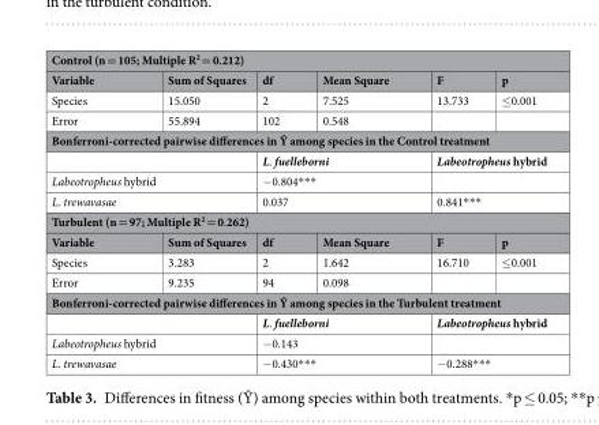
<table><thead><tr><td colspan="6">Control (n = 105; Multiple R<sup>2</sup> = 0.212)</td></tr><tr><td>Variable</td><td>Sum of Squares</td><td>df</td><td>Mean Square</td><td>F</td><td>p</td></tr></thead><tbody><tr><td>Species</td><td>15.050</td><td>2</td><td>7.525</td><td>13.733</td><td>≤0.001</td></tr><tr><td>Error</td><td>55.894</td><td>102</td><td>0.548</td><td></td><td></td></tr><tr><td colspan="6">Bonferroni-corrected pairwise differences in Ŷ among species in the Control treatment</td></tr><tr><td colspan="2"></td><td colspan="2">L. fuelleborni</td><td colspan="2">Labeotropheus hybrid</td></tr><tr><td colspan="2">Labeotropheus hybrid</td><td colspan="2">−0.804***</td><td colspan="2"></td></tr><tr><td colspan="2">L. trewavasae</td><td colspan="2">0.037</td><td colspan="2">0.841***</td></tr><tr><td colspan="6">Turbulent (n = 97; Multiple R<sup>2</sup> = 0.262)</td></tr><tr><td>Variable</td><td>Sum of Squares</td><td>df</td><td>Mean Square</td><td>F</td><td>p</td></tr><tr><td>Species</td><td>3.283</td><td>2</td><td>1.642</td><td>16.710</td><td>≤0.001</td></tr><tr><td>Error</td><td>9.235</td><td>94</td><td>0.098</td><td></td><td></td></tr><tr><td colspan="6">Bonferroni-corrected pairwise differences in Ŷ among species in the Turbulent treatment</td></tr><tr><td colspan="2"></td><td colspan="2">L. fuelleborni</td><td colspan="2">Labeotropheus hybrid</td></tr><tr><td colspan="2">Labeotropheus hybrid</td><td colspan="2">−0.143</td><td colspan="2"></td></tr><tr><td colspan="2">L. trewavasae</td><td colspan="2">−0.430***</td><td colspan="2">−0.288***</td></tr></tbody></table>